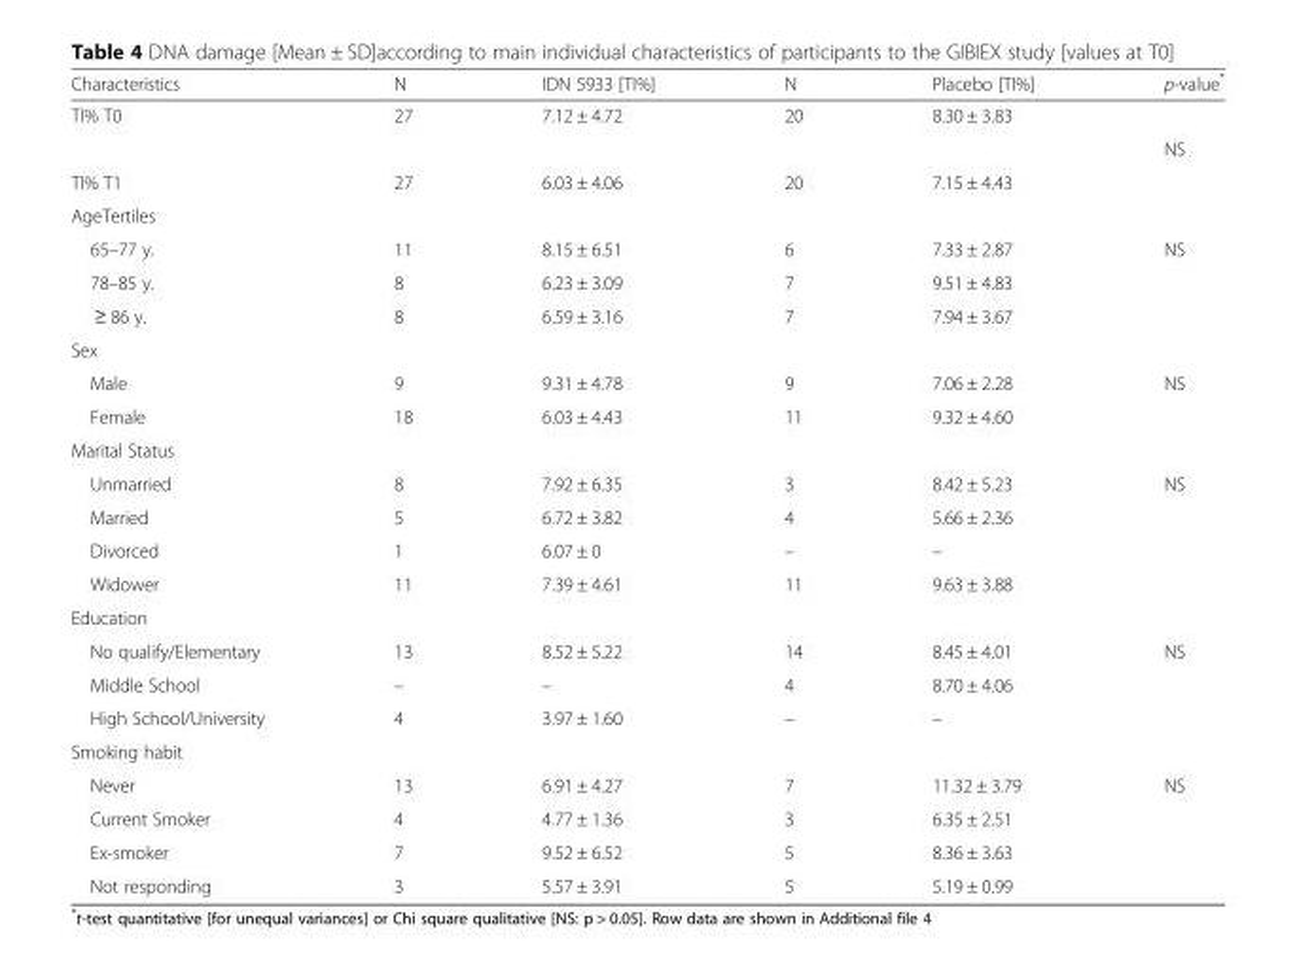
<table><thead><tr><td>Characteristics</td><td>N</td><td>IDN 5933 [TI%]</td><td>N</td><td>Placebo [TI%]</td><td>p-value*</td></tr></thead><tbody><tr><td rowspan="2">TI% T0</td><td>27</td><td>7.12 ± 4.72</td><td>20</td><td>8.30 ± 3.83</td><td></td></tr><tr><td></td><td></td><td></td><td></td><td>NS</td></tr><tr><td>TI% T1</td><td>27</td><td>6.03 ± 4.06</td><td>20</td><td>7.15 ± 4.43</td><td></td></tr><tr><td colspan="6">AgeTertiles</td></tr><tr><td>65–77 y.</td><td>11</td><td>8.15 ± 6.51</td><td>6</td><td>7.33 ± 2.87</td><td>NS</td></tr><tr><td>78–85 y.</td><td>8</td><td>6.23 ± 3.09</td><td>7</td><td>9.51 ± 4.83</td><td></td></tr><tr><td>≥ 86 y.</td><td>8</td><td>6.59 ± 3.16</td><td>7</td><td>7.94 ± 3.67</td><td></td></tr><tr><td colspan="6">Sex</td></tr><tr><td>Male</td><td>9</td><td>9.31 ± 4.78</td><td>9</td><td>7.06 ± 2.28</td><td>NS</td></tr><tr><td>Female</td><td>18</td><td>6.03 ± 4.43</td><td>11</td><td>9.32 ± 4.60</td><td></td></tr><tr><td colspan="6">Marital Status</td></tr><tr><td>Unmarried</td><td>8</td><td>7.92 ± 6.35</td><td>3</td><td>8.42 ± 5.23</td><td>NS</td></tr><tr><td>Married</td><td>5</td><td>6.72 ± 3.82</td><td>4</td><td>5.66 ± 2.36</td><td></td></tr><tr><td>Divorced</td><td>1</td><td>6.07 ± 0</td><td>–</td><td>–</td><td></td></tr><tr><td>Widower</td><td>11</td><td>7.39 ± 4.61</td><td>11</td><td>9.63 ± 3.88</td><td></td></tr><tr><td colspan="6">Education</td></tr><tr><td>No qualify/Elementary</td><td>13</td><td>8.52 ± 5.22</td><td>14</td><td>8.45 ± 4.01</td><td>NS</td></tr><tr><td>Middle School</td><td>–</td><td>–</td><td>4</td><td>8.70 ± 4.06</td><td></td></tr><tr><td>High School/University</td><td>4</td><td>3.97 ± 1.60</td><td>–</td><td>–</td><td></td></tr><tr><td colspan="6">Smoking habit</td></tr><tr><td>Never</td><td>13</td><td>6.91 ± 4.27</td><td>7</td><td>11.32 ± 3.79</td><td>NS</td></tr><tr><td>Current Smoker</td><td>4</td><td>4.77 ± 1.36</td><td>3</td><td>6.35 ± 2.51</td><td></td></tr><tr><td>Ex-smoker</td><td>7</td><td>9.52 ± 6.52</td><td>5</td><td>8.36 ± 3.63</td><td></td></tr><tr><td>Not responding</td><td>3</td><td>5.57 ± 3.91</td><td>5</td><td>5.19 ± 0.99</td><td></td></tr></tbody></table>